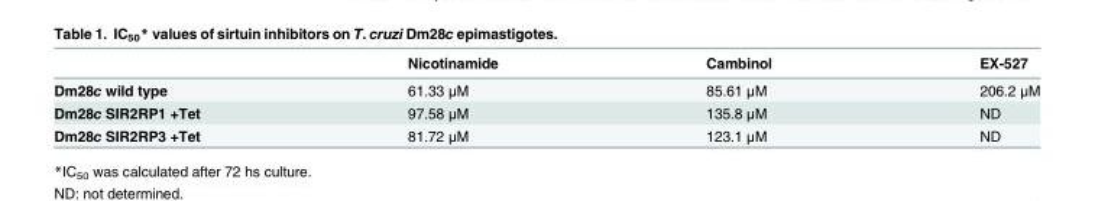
<table><thead><tr><td></td><td>Nicotinamide</td><td>Cambinol</td><td>EX-527</td></tr></thead><tbody><tr><td>Dm28c wild type</td><td>61.33 μM</td><td>85.61 μM</td><td>206.2 μM</td></tr><tr><td>Dm28c SIR2RP1 +Tet</td><td>97.58 μM</td><td>135.8 μM</td><td>ND</td></tr><tr><td>Dm28c SIR2RP3 +Tet</td><td>81.72 μM</td><td>123.1 μM</td><td>ND</td></tr></tbody></table>